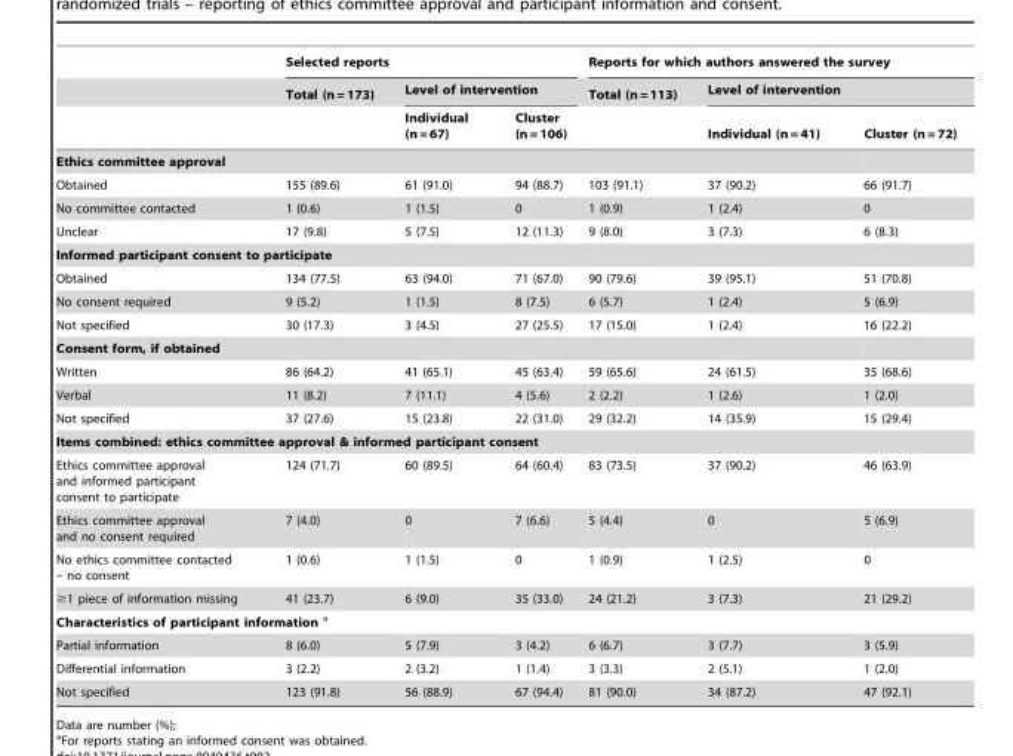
<table><thead><tr><td rowspan="3"></td><td colspan="3">Selected reports</td><td colspan="3">Reports for which authors answered the survey</td></tr><tr><td rowspan="2">Total (n = 173)</td><td colspan="2">Level of intervention</td><td rowspan="2">Total (n = 113)</td><td colspan="2">Level of intervention</td></tr><tr><td>Individual (n = 67)</td><td>Cluster (n = 106)</td><td>Individual (n = 41)</td><td>Cluster (n = 72)</td></tr></thead><tbody><tr><td colspan="7">Ethics committee approval</td></tr><tr><td>Obtained</td><td>155 (89.6)</td><td>61 (91.0)</td><td>94 (88.7)</td><td>103 (91.1)</td><td>37 (90.2)</td><td>66 (91.7)</td></tr><tr><td>No committee contacted</td><td>1 (0.6)</td><td>1 (1.5)</td><td>0</td><td>1 (0.9)</td><td>1 (2.4)</td><td>0</td></tr><tr><td>Unclear</td><td>17 (9.8)</td><td>5 (7.5)</td><td>12 (11.3)</td><td>9 (8.0)</td><td>3 (7.3)</td><td>6 (8.3)</td></tr><tr><td colspan="7">Informed participant consent to participate</td></tr><tr><td>Obtained</td><td>134 (77.5)</td><td>63 (94.0)</td><td>71 (67.0)</td><td>90 (79.6)</td><td>39 (95.1)</td><td>51 (70.8)</td></tr><tr><td>No consent required</td><td>9 (5.2)</td><td>1 (1.5)</td><td>8 (7.5)</td><td>6 (5.7)</td><td>1 (2.4)</td><td>5 (6.9)</td></tr><tr><td>Not specified</td><td>30 (17.3)</td><td>3 (4.5)</td><td>27 (25.5)</td><td>17 (15.0)</td><td>1 (2.4)</td><td>16 (22.2)</td></tr><tr><td colspan="7">Consent form, if obtained</td></tr><tr><td>Written</td><td>86 (64.2)</td><td>41 (65.1)</td><td>45 (63.4)</td><td>59 (65.6)</td><td>24 (61.5)</td><td>35 (68.6)</td></tr><tr><td>Verbal</td><td>11 (8.2)</td><td>7 (11.1)</td><td>4 (5.6)</td><td>2 (2.2)</td><td>1 (2.6)</td><td>1 (2.0)</td></tr><tr><td>Not specified</td><td>37 (27.6)</td><td>15 (23.8)</td><td>22 (31.0)</td><td>29 (32.2)</td><td>14 (35.9)</td><td>15 (29.4)</td></tr><tr><td colspan="7">Items combined: ethics committee approval &amp; informed participant consent</td></tr><tr><td>Ethics committee approval and informed participant consent to participate</td><td>124 (71.7)</td><td>60 (89.5)</td><td>64 (60.4)</td><td>83 (73.5)</td><td>37 (90.2)</td><td>46 (63.9)</td></tr><tr><td>Ethics committee approval and no consent required</td><td>7 (4.0)</td><td>0</td><td>7 (6.6)</td><td>5 (4.4)</td><td>0</td><td>5 (6.9)</td></tr><tr><td>No ethics committee contacted – no consent</td><td>1 (0.6)</td><td>1 (1.5)</td><td>0</td><td>1 (0.9)</td><td>1 (2.5)</td><td>0</td></tr><tr><td>≥1 piece of information missing</td><td>41 (23.7)</td><td>6 (9.0)</td><td>35 (33.0)</td><td>24 (21.2)</td><td>3 (7.3)</td><td>21 (29.2)</td></tr><tr><td colspan="7">Characteristics of participant information a</td></tr><tr><td>Partial information</td><td>8 (6.0)</td><td>5 (7.9)</td><td>3 (4.2)</td><td>6 (6.7)</td><td>3 (7.7)</td><td>3 (5.9)</td></tr><tr><td>Differential information</td><td>3 (2.2)</td><td>2 (3.2)</td><td>1 (1.4)</td><td>3 (3.3)</td><td>2 (5.1)</td><td>1 (2.0)</td></tr><tr><td>Not specified</td><td>123 (91.8)</td><td>56 (88.9)</td><td>67 (94.4)</td><td>81 (90.0)</td><td>34 (87.2)</td><td>47 (92.1)</td></tr></tbody></table>